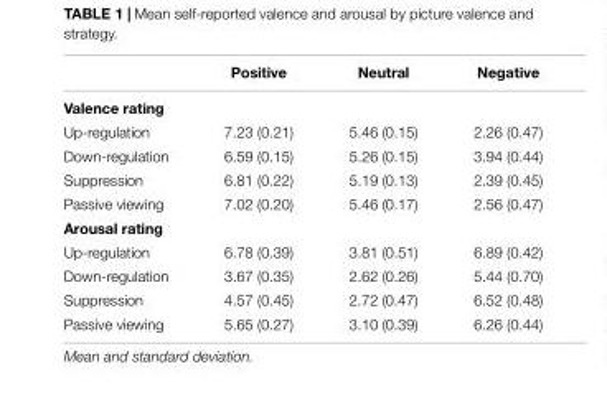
<table><thead><tr><td></td><td>Positive</td><td>Neutral</td><td>Negative</td></tr></thead><tbody><tr><td colspan="4">Valence rating</td></tr><tr><td>Up-regulation</td><td>7.23 (0.21)</td><td>5.46 (0.15)</td><td>2.26 (0.47)</td></tr><tr><td>Down-regulation</td><td>6.59 (0.15)</td><td>5.26 (0.15)</td><td>3.94 (0.44)</td></tr><tr><td>Suppression</td><td>6.81 (0.22)</td><td>5.19 (0.13)</td><td>2.39 (0.45)</td></tr><tr><td>Passive viewing</td><td>7.02 (0.20)</td><td>5.46 (0.17)</td><td>2.56 (0.47)</td></tr><tr><td colspan="4">Arousal rating</td></tr><tr><td>Up-regulation</td><td>6.78 (0.39)</td><td>3.81 (0.51)</td><td>6.89 (0.42)</td></tr><tr><td>Down-regulation</td><td>3.67 (0.35)</td><td>2.62 (0.26)</td><td>5.44 (0.70)</td></tr><tr><td>Suppression</td><td>4.57 (0.45)</td><td>2.72 (0.47)</td><td>6.52 (0.48)</td></tr><tr><td>Passive viewing</td><td>5.65 (0.27)</td><td>3.10 (0.39)</td><td>6.26 (0.44)</td></tr></tbody></table>